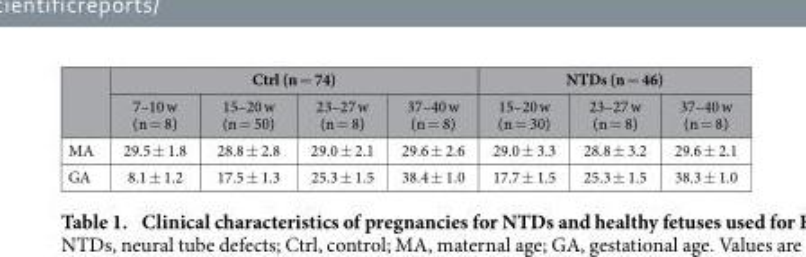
<table><thead><tr><td rowspan="2"></td><td colspan="4">Ctrl (n = 74)</td><td colspan="3">NTDs (n = 46)</td></tr><tr><td>7–10 w (n = 8)</td><td>15–20 w (n = 50)</td><td>23–27 w (n = 8)</td><td>37–40 w (n = 8)</td><td>15–20 w (n = 30)</td><td>23–27 w (n = 8)</td><td>37–40 w (n = 8)</td></tr></thead><tbody><tr><td>MA</td><td>29.5 ± 1.8</td><td>28.8 ± 2.8</td><td>29.0 ± 2.1</td><td>29.6 ± 2.6</td><td>29.0 ± 3.3</td><td>28.8 ± 3.2</td><td>29.6 ± 2.1</td></tr><tr><td>GA</td><td>8.1 ± 1.2</td><td>17.5 ± 1.3</td><td>25.3 ± 1.5</td><td>38.4 ± 1.0</td><td>17.7 ± 1.5</td><td>25.3 ± 1.5</td><td>38.3 ± 1.0</td></tr></tbody></table>